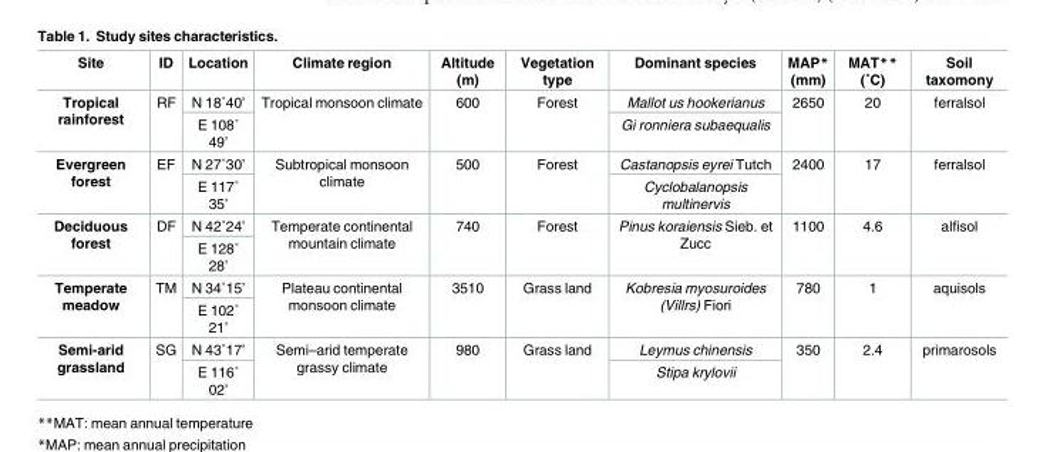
<table><thead><tr><td>Site</td><td>ID</td><td>Location</td><td>Climate region</td><td>Altitude (m)</td><td>Vegetation type</td><td>Dominant species</td><td>MAP* (mm)</td><td>MAT** (˚C)</td><td>Soil taxomony</td></tr></thead><tbody><tr><td rowspan="2">Tropical rainforest</td><td rowspan="2">RF</td><td>N 18˚40’</td><td rowspan="2">Tropical monsoon climate</td><td rowspan="2">600</td><td rowspan="2">Forest</td><td>Mallot us hookerianus</td><td rowspan="2">2650</td><td rowspan="2">20</td><td rowspan="2">ferralsol</td></tr><tr><td>E 108˚ 49’</td><td>Gi ronniera subaequalis</td></tr><tr><td rowspan="2">Evergreen forest</td><td rowspan="2">EF</td><td>N 27˚30’</td><td rowspan="2">Subtropical monsoon climate</td><td rowspan="2">500</td><td rowspan="2">Forest</td><td>Castanopsis eyrei Tutch</td><td rowspan="2">2400</td><td rowspan="2">17</td><td rowspan="2">ferralsol</td></tr><tr><td>E 117˚ 35’</td><td>Cyclobalanopsis multinervis</td></tr><tr><td rowspan="2">Deciduous forest</td><td rowspan="2">DF</td><td>N 42˚24’</td><td rowspan="2">Temperate continental mountain climate</td><td rowspan="2">740</td><td rowspan="2">Forest</td><td rowspan="2">Pinus koraiensis Sieb. et Zucc</td><td rowspan="2">1100</td><td rowspan="2">4.6</td><td rowspan="2">alfisol</td></tr><tr><td>E 128˚ 28’</td></tr><tr><td rowspan="2">Temperate meadow</td><td rowspan="2">TM</td><td>N 34˚15’</td><td rowspan="2">Plateau continental monsoon climate</td><td rowspan="2">3510</td><td rowspan="2">Grass land</td><td rowspan="2">Kobresia myosuroides (Villrs) Fiori</td><td rowspan="2">780</td><td rowspan="2">1</td><td rowspan="2">aquisols</td></tr><tr><td>E 102˚ 21’</td></tr><tr><td rowspan="2">Semi-arid grassland</td><td rowspan="2">SG</td><td>N 43˚17’</td><td rowspan="2">Semi–arid temperate grassy climate</td><td rowspan="2">980</td><td rowspan="2">Grass land</td><td>Leymus chinensis</td><td rowspan="2">350</td><td rowspan="2">2.4</td><td rowspan="2">primarosols</td></tr><tr><td>E 116˚ 02’</td><td>Stipa krylovii</td></tr></tbody></table>